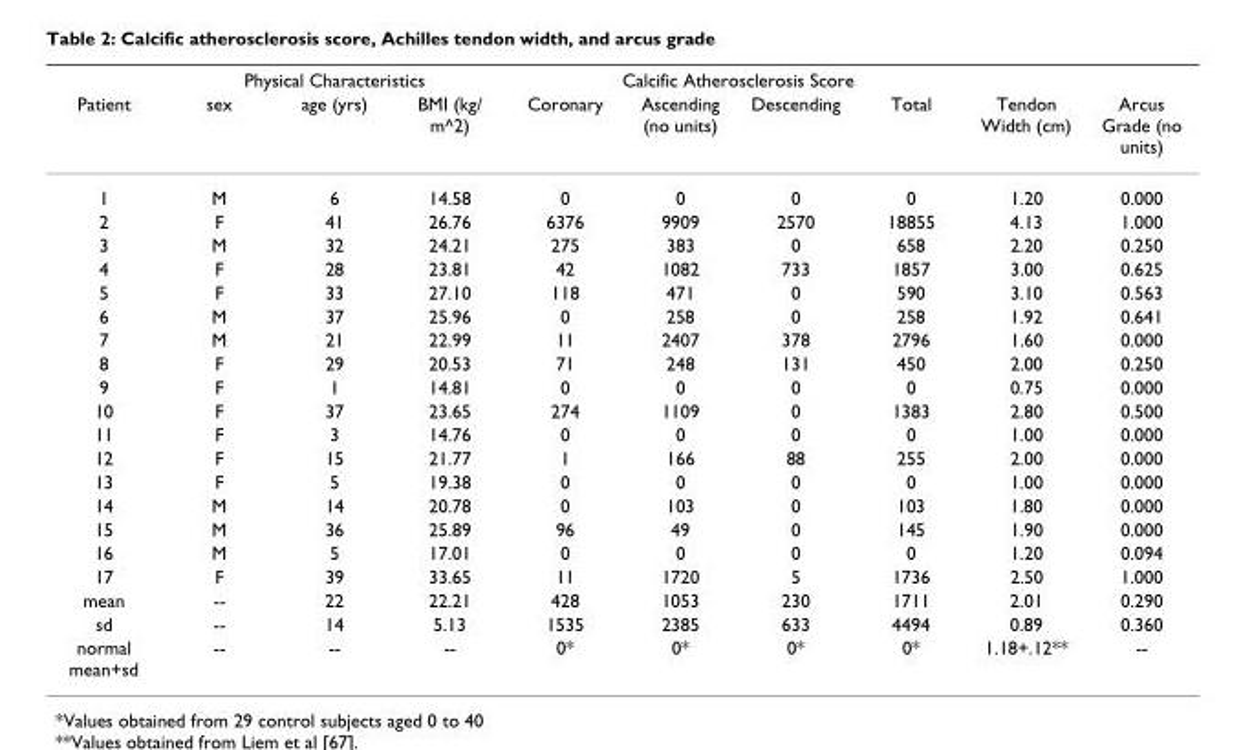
<table><thead><tr><td rowspan="2">Patient</td><td colspan="3">Physical Characteristics</td><td colspan="4">Calcific Atherosclerosis Score</td><td rowspan="2">Tendon Width (cm)</td><td rowspan="2">Arcus Grade (no units)</td></tr><tr><td>sex</td><td>age (yrs)</td><td>BMI (kg/ m^2)</td><td>Coronary</td><td>Ascending (no units)</td><td>Descending</td><td>Total</td></tr></thead><tbody><tr><td>1</td><td>M</td><td>6</td><td>14.58</td><td>0</td><td>0</td><td>0</td><td>0</td><td>1.20</td><td>0.000</td></tr><tr><td>2</td><td>F</td><td>41</td><td>26.76</td><td>6376</td><td>9909</td><td>2570</td><td>18855</td><td>4.13</td><td>1.000</td></tr><tr><td>3</td><td>M</td><td>32</td><td>24.21</td><td>275</td><td>383</td><td>0</td><td>658</td><td>2.20</td><td>0.250</td></tr><tr><td>4</td><td>F</td><td>28</td><td>23.81</td><td>42</td><td>1082</td><td>733</td><td>1857</td><td>3.00</td><td>0.625</td></tr><tr><td>5</td><td>F</td><td>33</td><td>27.10</td><td>118</td><td>471</td><td>0</td><td>590</td><td>3.10</td><td>0.563</td></tr><tr><td>6</td><td>M</td><td>37</td><td>25.96</td><td>0</td><td>258</td><td>0</td><td>258</td><td>1.92</td><td>0.641</td></tr><tr><td>7</td><td>M</td><td>21</td><td>22.99</td><td>11</td><td>2407</td><td>378</td><td>2796</td><td>1.60</td><td>0.000</td></tr><tr><td>8</td><td>F</td><td>29</td><td>20.53</td><td>71</td><td>248</td><td>131</td><td>450</td><td>2.00</td><td>0.250</td></tr><tr><td>9</td><td>F</td><td>1</td><td>14.81</td><td>0</td><td>0</td><td>0</td><td>0</td><td>0.75</td><td>0.000</td></tr><tr><td>10</td><td>F</td><td>37</td><td>23.65</td><td>274</td><td>1109</td><td>0</td><td>1383</td><td>2.80</td><td>0.500</td></tr><tr><td>11</td><td>F</td><td>3</td><td>14.76</td><td>0</td><td>0</td><td>0</td><td>0</td><td>1.00</td><td>0.000</td></tr><tr><td>12</td><td>F</td><td>15</td><td>21.77</td><td>1</td><td>166</td><td>88</td><td>255</td><td>2.00</td><td>0.000</td></tr><tr><td>13</td><td>F</td><td>5</td><td>19.38</td><td>0</td><td>0</td><td>0</td><td>0</td><td>1.00</td><td>0.000</td></tr><tr><td>14</td><td>M</td><td>14</td><td>20.78</td><td>0</td><td>103</td><td>0</td><td>103</td><td>1.80</td><td>0.000</td></tr><tr><td>15</td><td>M</td><td>36</td><td>25.89</td><td>96</td><td>49</td><td>0</td><td>145</td><td>1.90</td><td>0.000</td></tr><tr><td>16</td><td>M</td><td>5</td><td>17.01</td><td>0</td><td>0</td><td>0</td><td>0</td><td>1.20</td><td>0.094</td></tr><tr><td>17</td><td>F</td><td>39</td><td>33.65</td><td>11</td><td>1720</td><td>5</td><td>1736</td><td>2.50</td><td>1.000</td></tr><tr><td>mean</td><td>--</td><td>22</td><td>22.21</td><td>428</td><td>1053</td><td>230</td><td>1711</td><td>2.01</td><td>0.290</td></tr><tr><td>sd</td><td>--</td><td>14</td><td>5.13</td><td>1535</td><td>2385</td><td>633</td><td>4494</td><td>0.89</td><td>0.360</td></tr><tr><td>normal mean+sd</td><td>--</td><td>--</td><td>--</td><td>0*</td><td>0*</td><td>0*</td><td>0*</td><td>1.18+.12**</td><td>--</td></tr></tbody></table>